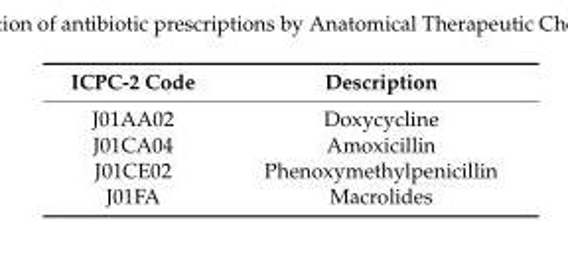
<table><thead><tr><td>ICPC-2 Code</td><td>Description</td></tr></thead><tbody><tr><td>J01AA02</td><td>Doxycycline</td></tr><tr><td>J01CA04</td><td>Amoxicillin</td></tr><tr><td>J01CE02</td><td>Phenoxymethylpenicillin</td></tr><tr><td>J01FA</td><td>Macrolides</td></tr></tbody></table>